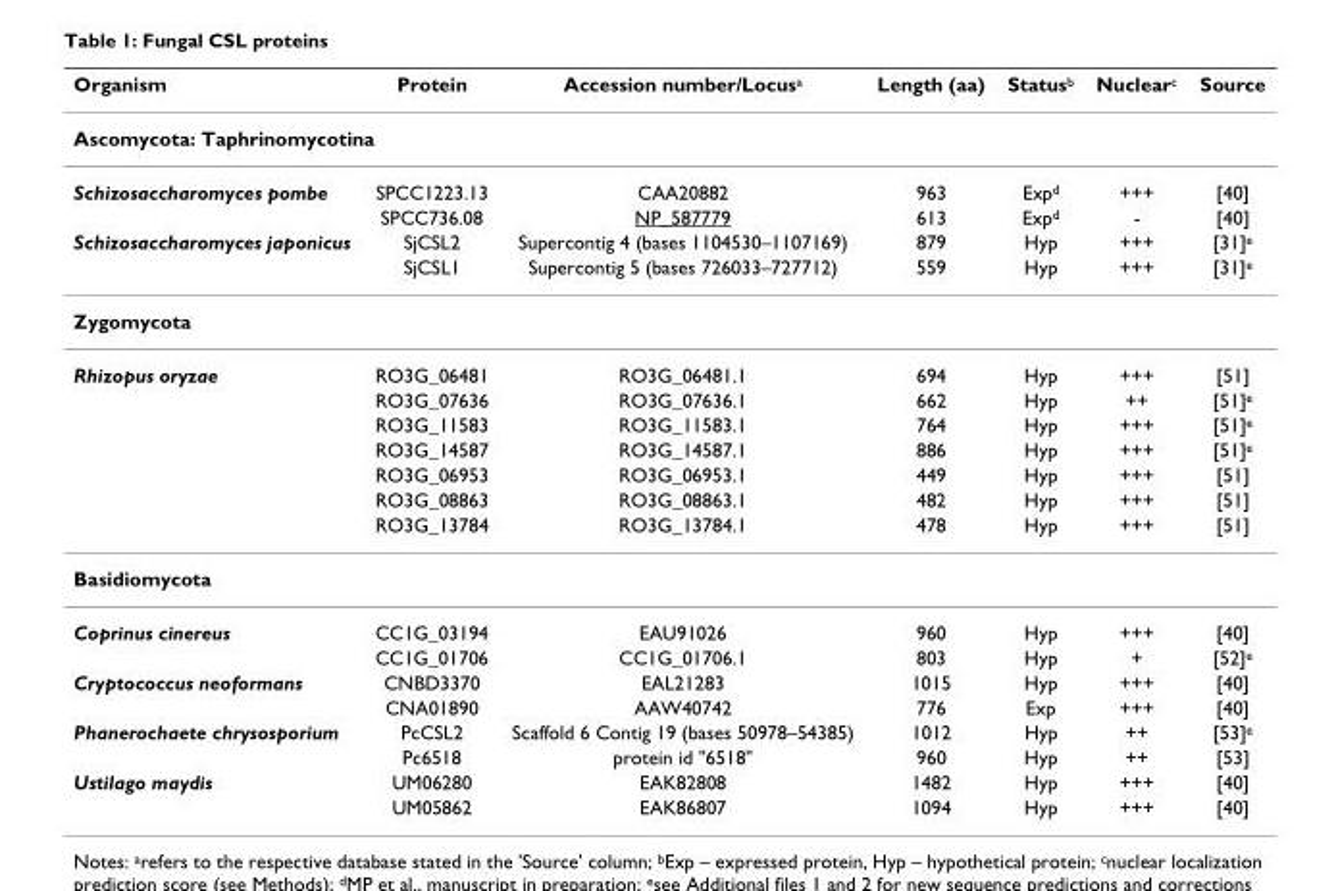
<table><thead><tr><td>Organism</td><td>Protein</td><td>Accession number/Locus<sup>a</sup></td><td>Length (aa)</td><td>Status<sup>b</sup></td><td>Nuclear<sup>c</sup></td><td>Source</td></tr></thead><tbody><tr><td colspan="7">Ascomycota: Taphrinomycotina</td></tr><tr><td rowspan="2">Schizosaccharomyces pombe</td><td>SPCC1223.13</td><td>CAA20882</td><td>963</td><td>Exp<sup>d</sup></td><td>+++</td><td>[40]</td></tr><tr><td>SPCC736.08</td><td>NP_587779</td><td>613</td><td>Exp<sup>d</sup></td><td>-</td><td>[40]</td></tr><tr><td rowspan="2">Schizosaccharomyces japonicus</td><td>SjCSL2</td><td>Supercontig 4 (bases 1104530–1107169)</td><td>879</td><td>Hyp</td><td>+++</td><td>[31]<sup>e</sup></td></tr><tr><td>SjCSL1</td><td>Supercontig 5 (bases 726033–727712)</td><td>559</td><td>Hyp</td><td>+++</td><td>[31]<sup>e</sup></td></tr><tr><td colspan="7">Zygomycota</td></tr><tr><td rowspan="7">Rhizopus oryzae</td><td>RO3G_06481</td><td>RO3G_06481.1</td><td>694</td><td>Hyp</td><td>+++</td><td>[51]</td></tr><tr><td>RO3G_07636</td><td>RO3G_07636.1</td><td>662</td><td>Hyp</td><td>++</td><td>[51]<sup>e</sup></td></tr><tr><td>RO3G_11583</td><td>RO3G_11583.1</td><td>764</td><td>Hyp</td><td>+++</td><td>[51]<sup>e</sup></td></tr><tr><td>RO3G_14587</td><td>RO3G_14587.1</td><td>886</td><td>Hyp</td><td>+++</td><td>[51]<sup>e</sup></td></tr><tr><td>RO3G_06953</td><td>RO3G_06953.1</td><td>449</td><td>Hyp</td><td>+++</td><td>[51]</td></tr><tr><td>RO3G_08863</td><td>RO3G_08863.1</td><td>482</td><td>Hyp</td><td>+++</td><td>[51]</td></tr><tr><td>RO3G_13784</td><td>RO3G_13784.1</td><td>478</td><td>Hyp</td><td>+++</td><td>[51]</td></tr><tr><td colspan="7">Basidiomycota</td></tr><tr><td rowspan="2">Coprinus cinereus</td><td>CC1G_03194</td><td>EAU91026</td><td>960</td><td>Hyp</td><td>+++</td><td>[40]</td></tr><tr><td>CC1G_01706</td><td>CC1G_01706.1</td><td>803</td><td>Hyp</td><td>+</td><td>[52]<sup>e</sup></td></tr><tr><td rowspan="2">Cryptococcus neoformans</td><td>CNBD3370</td><td>EAL21283</td><td>1015</td><td>Hyp</td><td>+++</td><td>[40]</td></tr><tr><td>CNA01890</td><td>AAW40742</td><td>776</td><td>Exp</td><td>+++</td><td>[40]</td></tr><tr><td rowspan="2">Phanerochaete chrysosporium</td><td>PcCSL2</td><td>Scaffold 6 Contig 19 (bases 50978–54385)</td><td>1012</td><td>Hyp</td><td>++</td><td>[53]<sup>e</sup></td></tr><tr><td>Pc6518</td><td>protein id &quot;6518&quot;</td><td>960</td><td>Hyp</td><td>++</td><td>[53]</td></tr><tr><td rowspan="2">Ustilago maydis</td><td>UM06280</td><td>EAK82808</td><td>1482</td><td>Hyp</td><td>+++</td><td>[40]</td></tr><tr><td>UM05862</td><td>EAK86807</td><td>1094</td><td>Hyp</td><td>+++</td><td>[40]</td></tr></tbody></table>